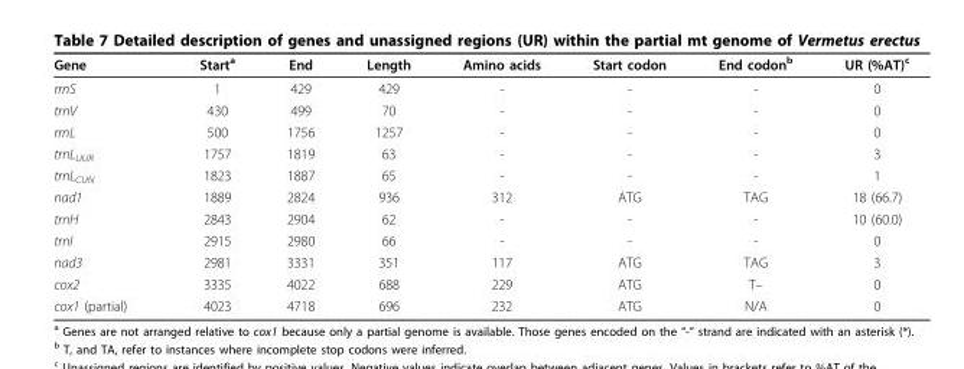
<table><thead><tr><td>Gene</td><td>Start<sup>a</sup></td><td>End</td><td>Length</td><td>Amino acids</td><td>Start codon</td><td>End codon<sup>b</sup></td><td>UR (%AT)<sup>c</sup></td></tr></thead><tbody><tr><td>rrnS</td><td>1</td><td>429</td><td>429</td><td>-</td><td>-</td><td>-</td><td>0</td></tr><tr><td>trnV</td><td>430</td><td>499</td><td>70</td><td>-</td><td>-</td><td>-</td><td>0</td></tr><tr><td>rrnL</td><td>500</td><td>1756</td><td>1257</td><td>-</td><td>-</td><td>-</td><td>0</td></tr><tr><td>trnL<sub>UUR</sub></td><td>1757</td><td>1819</td><td>63</td><td>-</td><td>-</td><td>-</td><td>3</td></tr><tr><td>trnL<sub>CUN</sub></td><td>1823</td><td>1887</td><td>65</td><td>-</td><td>-</td><td>-</td><td>1</td></tr><tr><td>nad1</td><td>1889</td><td>2824</td><td>936</td><td>312</td><td>ATG</td><td>TAG</td><td>18 (66.7)</td></tr><tr><td>trnH</td><td>2843</td><td>2904</td><td>62</td><td>-</td><td>-</td><td>-</td><td>10 (60.0)</td></tr><tr><td>trnI</td><td>2915</td><td>2980</td><td>66</td><td>-</td><td>-</td><td>-</td><td>0</td></tr><tr><td>nad3</td><td>2981</td><td>3331</td><td>351</td><td>117</td><td>ATG</td><td>TAG</td><td>3</td></tr><tr><td>cox2</td><td>3335</td><td>4022</td><td>688</td><td>229</td><td>ATG</td><td>T–</td><td>0</td></tr><tr><td>cox1 (partial)</td><td>4023</td><td>4718</td><td>696</td><td>232</td><td>ATG</td><td>N/A</td><td>0</td></tr></tbody></table>